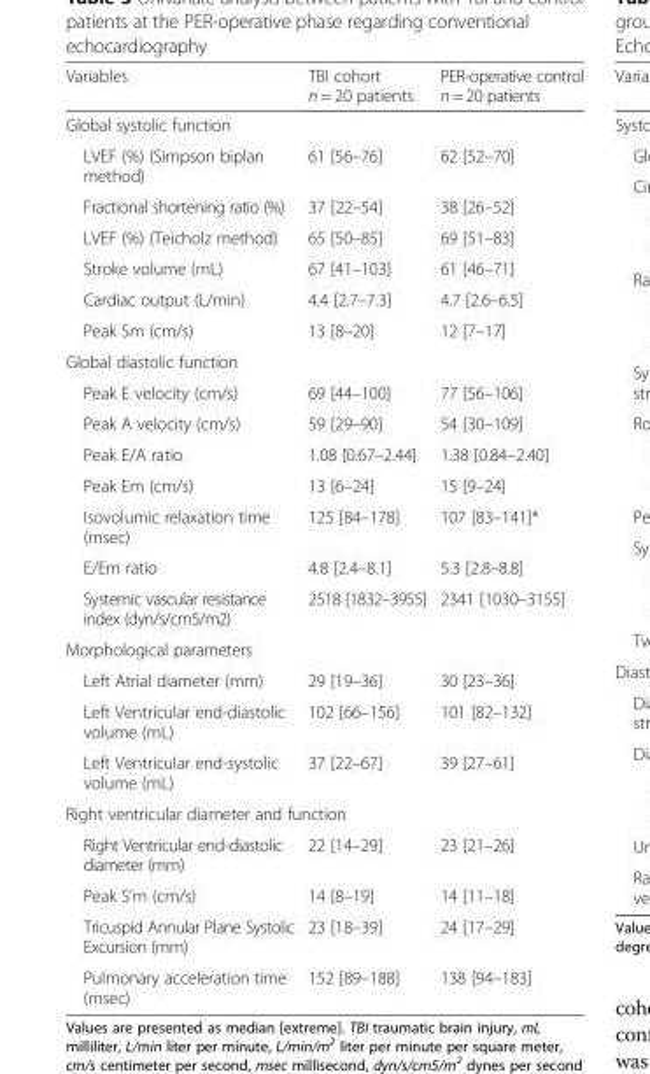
<table><thead><tr><td>Variables</td><td>TBI cohort n = 20 patients</td><td>PER-operative control n = 20 patients</td></tr></thead><tbody><tr><td colspan="3">Global systolic function</td></tr><tr><td>LVEF (%) (Simpson biplan method)</td><td>61 [56–76]</td><td>62 [52–70]</td></tr><tr><td>Fractional shortening ratio (%)</td><td>37 [22–54]</td><td>38 [26–52]</td></tr><tr><td>LVEF (%) (Teicholz method)</td><td>65 [50–85]</td><td>69 [51–83]</td></tr><tr><td>Stroke volume (mL)</td><td>67 [41–103]</td><td>61 [46–71]</td></tr><tr><td>Cardiac output (L/min)</td><td>4.4 [2.7–7.3]</td><td>4.7 [2.6–6.5]</td></tr><tr><td>Peak Sm (cm/s)</td><td>13 [8–20]</td><td>12 [7–17]</td></tr><tr><td colspan="3">Global diastolic function</td></tr><tr><td>Peak E velocity (cm/s)</td><td>69 [44–100]</td><td>77 [56–106]</td></tr><tr><td>Peak A velocity (cm/s)</td><td>59 [29–90]</td><td>54 [30–109]</td></tr><tr><td>Peak E/A ratio</td><td>1.08 [0.67–2.44]</td><td>1.38 [0.84–2.40]</td></tr><tr><td>Peak Em (cm/s)</td><td>13 [6–24]</td><td>15 [9–24]</td></tr><tr><td>Isovolumic relaxation time (msec)</td><td>125 [84–178]</td><td>107 [83–141]*</td></tr><tr><td>E/Em ratio</td><td>4.8 [2.4–8.1]</td><td>5.3 [2.8–8.8]</td></tr><tr><td>Systemic vascular resistance index (dyn/s/cm5/m2)</td><td>2518 [1832–3955]</td><td>2341 [1030–3155]</td></tr><tr><td colspan="3">Morphological parameters</td></tr><tr><td>Left Atrial diameter (mm)</td><td>29 [19–36]</td><td>30 [23–36]</td></tr><tr><td>Left Ventricular end-diastolic volume (mL)</td><td>102 [66–156]</td><td>101 [82–132]</td></tr><tr><td>Left Ventricular end-systolic volume (mL)</td><td>37 [22–67]</td><td>39 [27–61]</td></tr><tr><td colspan="3">Right ventricular diameter and function</td></tr><tr><td>Right Ventricular end-diastolic diameter (mm)</td><td>22 [14–29]</td><td>23 [21–26]</td></tr><tr><td>Peak S’m (cm/s)</td><td>14 [8–19]</td><td>14 [11–18]</td></tr><tr><td>Tricuspid Annular Plane Systolic Excursion (mm)</td><td>23 [18–39]</td><td>24 [17–29]</td></tr><tr><td>Pulmonary acceleration time (msec)</td><td>152 [89–188]</td><td>138 [94–183]</td></tr></tbody></table>